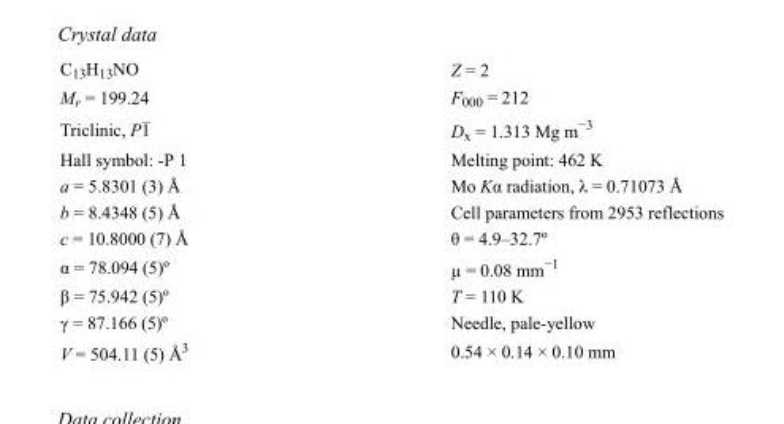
<table><tbody><tr><td>C<sub>13</sub>H<sub>13</sub>NO</td><td>Z = 2</td></tr><tr><td>M<sub>r</sub> = 199.24</td><td>F000 = 212</td></tr><tr><td>Triclinic, P1</td><td>D<sub>x</sub> = 1.313 Mg m<sup>−3</sup></td></tr><tr><td>Hall symbol: -P 1</td><td>Melting point: 462 K</td></tr><tr><td>a = 5.8301 (3) Å</td><td>Mo Kα radiation, λ = 0.71073 Å</td></tr><tr><td>b = 8.4348 (5) Å</td><td>Cell parameters from 2953 reflections</td></tr><tr><td>c = 10.8000 (7) Å</td><td>θ = 4.9–32.7º</td></tr><tr><td>α = 78.094 (5)º</td><td>µ = 0.08 mm<sup>−1</sup></td></tr><tr><td>β = 75.942 (5)º</td><td>T = 110 K</td></tr><tr><td>γ = 87.166 (5)º</td><td>Needle, pale-yellow</td></tr><tr><td>V = 504.11 (5) Å<sup>3</sup></td><td>0.54 × 0.14 × 0.10 mm</td></tr></tbody></table>